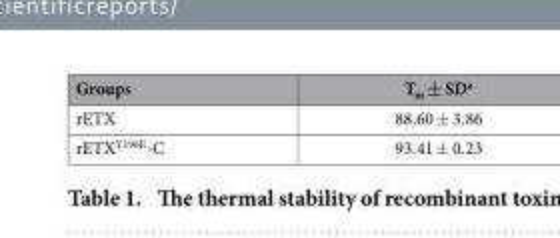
<table><thead><tr><td>Groups</td><td>T<sub>m</sub> ± SD<sup>a</sup></td></tr></thead><tbody><tr><td>rETX</td><td>88.60 ± 3.86</td></tr><tr><td>rETX<sup>Y196E</sup>-C</td><td>93.41 ± 0.23</td></tr></tbody></table>